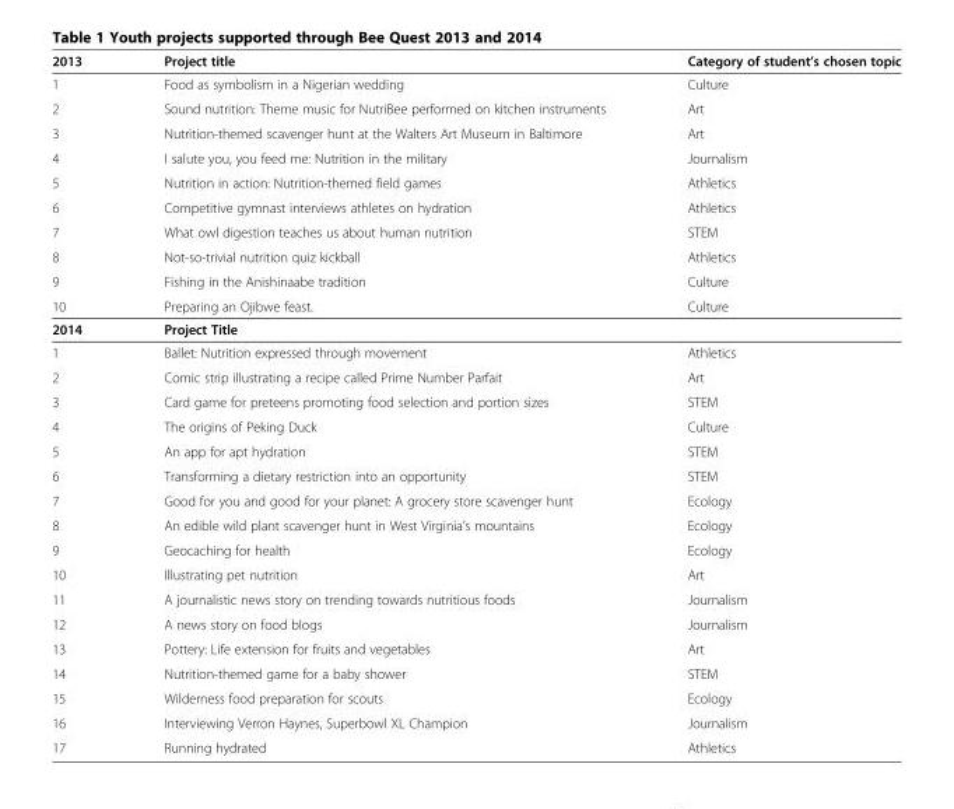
<table><thead><tr><td>2013</td><td>Project title</td><td>Category of student’s chosen topic</td></tr></thead><tbody><tr><td>1</td><td>Food as symbolism in a Nigerian wedding</td><td>Culture</td></tr><tr><td>2</td><td>Sound nutrition: Theme music for NutriBee performed on kitchen instruments</td><td>Art</td></tr><tr><td>3</td><td>Nutrition-themed scavenger hunt at the Walters Art Museum in Baltimore</td><td>Art</td></tr><tr><td>4</td><td>I salute you, you feed me: Nutrition in the military</td><td>Journalism</td></tr><tr><td>5</td><td>Nutrition in action: Nutrition-themed field games</td><td>Athletics</td></tr><tr><td>6</td><td>Competitive gymnast interviews athletes on hydration</td><td>Athletics</td></tr><tr><td>7</td><td>What owl digestion teaches us about human nutrition</td><td>STEM</td></tr><tr><td>8</td><td>Not-so-trivial nutrition quiz kickball</td><td>Athletics</td></tr><tr><td>9</td><td>Fishing in the Anishinaabe tradition</td><td>Culture</td></tr><tr><td>10</td><td>Preparing an Ojibwe feast.</td><td>Culture</td></tr><tr><td>2014</td><td>Project Title</td><td></td></tr><tr><td>1</td><td>Ballet: Nutrition expressed through movement</td><td>Athletics</td></tr><tr><td>2</td><td>Comic strip illustrating a recipe called Prime Number Parfait</td><td>Art</td></tr><tr><td>3</td><td>Card game for preteens promoting food selection and portion sizes</td><td>STEM</td></tr><tr><td>4</td><td>The origins of Peking Duck</td><td>Culture</td></tr><tr><td>5</td><td>An app for apt hydration</td><td>STEM</td></tr><tr><td>6</td><td>Transforming a dietary restriction into an opportunity</td><td>STEM</td></tr><tr><td>7</td><td>Good for you and good for your planet: A grocery store scavenger hunt</td><td>Ecology</td></tr><tr><td>8</td><td>An edible wild plant scavenger hunt in West Virginia’s mountains</td><td>Ecology</td></tr><tr><td>9</td><td>Geocaching for health</td><td>Ecology</td></tr><tr><td>10</td><td>Illustrating pet nutrition</td><td>Art</td></tr><tr><td>11</td><td>A journalistic news story on trending towards nutritious foods</td><td>Journalism</td></tr><tr><td>12</td><td>A news story on food blogs</td><td>Journalism</td></tr><tr><td>13</td><td>Pottery: Life extension for fruits and vegetables</td><td>Art</td></tr><tr><td>14</td><td>Nutrition-themed game for a baby shower</td><td>STEM</td></tr><tr><td>15</td><td>Wilderness food preparation for scouts</td><td>Ecology</td></tr><tr><td>16</td><td>Interviewing Verron Haynes, Superbowl XL Champion</td><td>Journalism</td></tr><tr><td>17</td><td>Running hydrated</td><td>Athletics</td></tr></tbody></table>